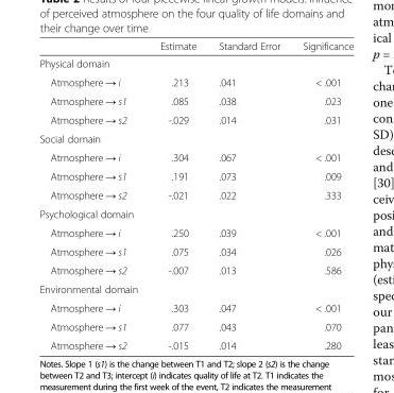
<table><thead><tr><td></td><td>Estimate</td><td>Standard Error</td><td>Significance</td></tr></thead><tbody><tr><td colspan="4">Physical domain</td></tr><tr><td>Atmosphere → i</td><td>.213</td><td>.041</td><td>&lt; .001</td></tr><tr><td>Atmosphere → s1</td><td>.085</td><td>.038</td><td>.023</td></tr><tr><td>Atmosphere → s2</td><td>-.029</td><td>.014</td><td>.031</td></tr><tr><td colspan="4">Social domain</td></tr><tr><td>Atmosphere → i</td><td>.304</td><td>.067</td><td>&lt; .001</td></tr><tr><td>Atmosphere → s1</td><td>.191</td><td>.073</td><td>.009</td></tr><tr><td>Atmosphere → s2</td><td>-.021</td><td>.022</td><td>.333</td></tr><tr><td colspan="4">Psychological domain</td></tr><tr><td>Atmosphere → i</td><td>.250</td><td>.039</td><td>&lt; .001</td></tr><tr><td>Atmosphere → s1</td><td>.075</td><td>.034</td><td>.026</td></tr><tr><td>Atmosphere → s2</td><td>-.007</td><td>.013</td><td>.586</td></tr><tr><td colspan="4">Environmental domain</td></tr><tr><td>Atmosphere → i</td><td>.303</td><td>.047</td><td>&lt; .001</td></tr><tr><td>Atmosphere → s1</td><td>.077</td><td>.043</td><td>.070</td></tr><tr><td>Atmosphere → s2</td><td>-.015</td><td>.014</td><td>.280</td></tr></tbody></table>